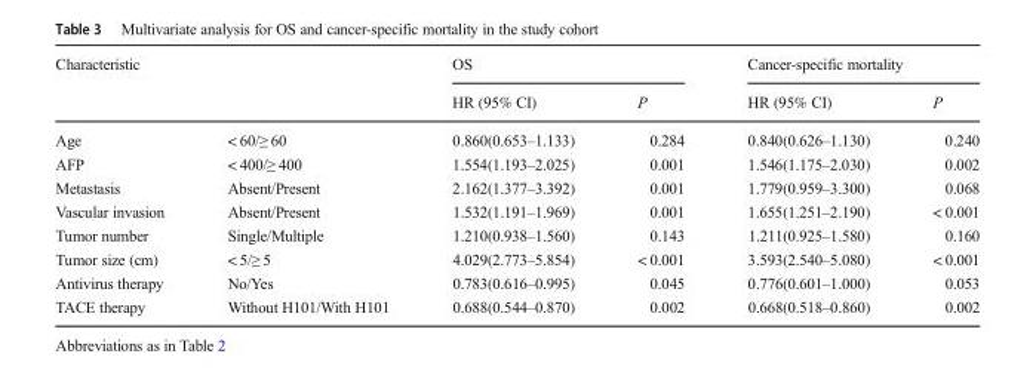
<table><thead><tr><td rowspan="2">Characteristic</td><td rowspan="2"></td><td colspan="2">OS</td><td colspan="2">Cancer-specific mortality</td></tr><tr><td>HR (95% CI)</td><td>P</td><td>HR (95% CI)</td><td>P</td></tr></thead><tbody><tr><td>Age</td><td>&lt; 60/≥ 60</td><td>0.860(0.653–1.133)</td><td>0.284</td><td>0.840(0.626–1.130)</td><td>0.240</td></tr><tr><td>AFP</td><td>&lt; 400/≥ 400</td><td>1.554(1.193–2.025)</td><td>0.001</td><td>1.546(1.175–2.030)</td><td>0.002</td></tr><tr><td>Metastasis</td><td>Absent/Present</td><td>2.162(1.377–3.392)</td><td>0.001</td><td>1.779(0.959–3.300)</td><td>0.068</td></tr><tr><td>Vascular invasion</td><td>Absent/Present</td><td>1.532(1.191–1.969)</td><td>0.001</td><td>1.655(1.251–2.190)</td><td>&lt; 0.001</td></tr><tr><td>Tumor number</td><td>Single/Multiple</td><td>1.210(0.938–1.560)</td><td>0.143</td><td>1.211(0.925–1.580)</td><td>0.160</td></tr><tr><td>Tumor size (cm)</td><td>&lt; 5/≥ 5</td><td>4.029(2.773–5.854)</td><td>&lt; 0.001</td><td>3.593(2.540–5.080)</td><td>&lt; 0.001</td></tr><tr><td>Antivirus therapy</td><td>No/Yes</td><td>0.783(0.616–0.995)</td><td>0.045</td><td>0.776(0.601–1.000)</td><td>0.053</td></tr><tr><td>TACE therapy</td><td>Without H101/With H101</td><td>0.688(0.544–0.870)</td><td>0.002</td><td>0.668(0.518–0.860)</td><td>0.002</td></tr></tbody></table>